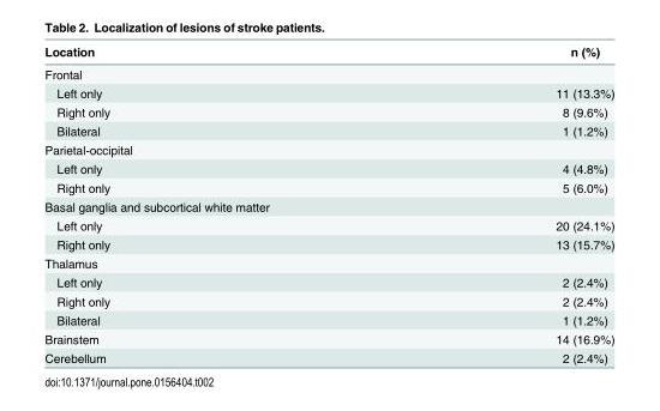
<table><thead><tr><td>Location</td><td>n (%)</td></tr></thead><tbody><tr><td colspan="2">Frontal</td></tr><tr><td>Left only</td><td>11 (13.3%)</td></tr><tr><td>Right only</td><td>8 (9.6%)</td></tr><tr><td>Bilateral</td><td>1 (1.2%)</td></tr><tr><td colspan="2">Parietal-occipital</td></tr><tr><td>Left only</td><td>4 (4.8%)</td></tr><tr><td>Right only</td><td>5 (6.0%)</td></tr><tr><td colspan="2">Basal ganglia and subcortical white matter</td></tr><tr><td>Left only</td><td>20 (24.1%)</td></tr><tr><td>Right only</td><td>13 (15.7%)</td></tr><tr><td colspan="2">Thalamus</td></tr><tr><td>Left only</td><td>2 (2.4%)</td></tr><tr><td>Right only</td><td>2 (2.4%)</td></tr><tr><td>Bilateral</td><td>1 (1.2%)</td></tr><tr><td>Brainstem</td><td>14 (16.9%)</td></tr><tr><td>Cerebellum</td><td>2 (2.4%)</td></tr></tbody></table>